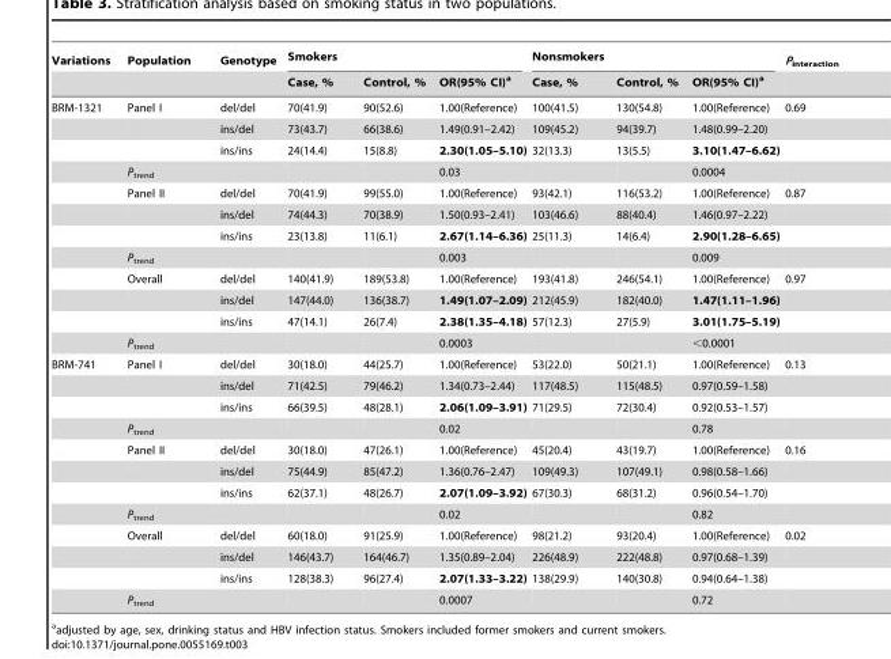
<table><thead><tr><td rowspan="2">Variations</td><td rowspan="2">Population</td><td rowspan="2">Genotype</td><td colspan="3">Smokers</td><td colspan="3">Nonsmokers</td><td rowspan="2">P<sub>interaction</sub></td></tr><tr><td>Case, %</td><td>Control, %</td><td>OR(95% CI)<sup>a</sup></td><td>Case, %</td><td>Control, %</td><td>OR(95% CI)<sup>a</sup></td></tr></thead><tbody><tr><td rowspan="12">BRM-1321</td><td>Panel I</td><td>del/del</td><td>70(41.9)</td><td>90(52.6)</td><td>1.00(Reference)</td><td>100(41.5)</td><td>130(54.8)</td><td>1.00(Reference)</td><td>0.69</td></tr><tr><td></td><td>ins/del</td><td>73(43.7)</td><td>66(38.6)</td><td>1.49(0.91–2.42)</td><td>109(45.2)</td><td>94(39.7)</td><td>1.48(0.99–2.20)</td><td></td></tr><tr><td></td><td>ins/ins</td><td>24(14.4)</td><td>15(8.8)</td><td>2.30(1.05–5.10)</td><td>32(13.3)</td><td>13(5.5)</td><td>3.10(1.47–6.62)</td><td></td></tr><tr><td>P<sub>trend</sub></td><td></td><td></td><td></td><td>0.03</td><td></td><td></td><td>0.0004</td><td></td></tr><tr><td>Panel II</td><td>del/del</td><td>70(41.9)</td><td>99(55.0)</td><td>1.00(Reference)</td><td>93(42.1)</td><td>116(53.2)</td><td>1.00(Reference)</td><td>0.87</td></tr><tr><td></td><td>ins/del</td><td>74(44.3)</td><td>70(38.9)</td><td>1.50(0.93–2.41)</td><td>103(46.6)</td><td>88(40.4)</td><td>1.46(0.97–2.22)</td><td></td></tr><tr><td></td><td>ins/ins</td><td>23(13.8)</td><td>11(6.1)</td><td>2.67(1.14–6.36)</td><td>25(11.3)</td><td>14(6.4)</td><td>2.90(1.28–6.65)</td><td></td></tr><tr><td>P<sub>trend</sub></td><td></td><td></td><td></td><td>0.003</td><td></td><td></td><td>0.009</td><td></td></tr><tr><td>Overall</td><td>del/del</td><td>140(41.9)</td><td>189(53.8)</td><td>1.00(Reference)</td><td>193(41.8)</td><td>246(54.1)</td><td>1.00(Reference)</td><td>0.97</td></tr><tr><td></td><td>ins/del</td><td>147(44.0)</td><td>136(38.7)</td><td>1.49(1.07–2.09)</td><td>212(45.9)</td><td>182(40.0)</td><td>1.47(1.11–1.96)</td><td></td></tr><tr><td></td><td>ins/ins</td><td>47(14.1)</td><td>26(7.4)</td><td>2.38(1.35–4.18)</td><td>57(12.3)</td><td>27(5.9)</td><td>3.01(1.75–5.19)</td><td></td></tr><tr><td>P<sub>trend</sub></td><td></td><td></td><td></td><td>0.0003</td><td></td><td></td><td>&lt;0.0001</td><td></td></tr><tr><td rowspan="12">BRM-741</td><td>Panel I</td><td>del/del</td><td>30(18.0)</td><td>44(25.7)</td><td>1.00(Reference)</td><td>53(22.0)</td><td>50(21.1)</td><td>1.00(Reference)</td><td>0.13</td></tr><tr><td></td><td>ins/del</td><td>71(42.5)</td><td>79(46.2)</td><td>1.34(0.73–2.44)</td><td>117(48.5)</td><td>115(48.5)</td><td>0.97(0.59–1.58)</td><td></td></tr><tr><td></td><td>ins/ins</td><td>66(39.5)</td><td>48(28.1)</td><td>2.06(1.09–3.91)</td><td>71(29.5)</td><td>72(30.4)</td><td>0.92(0.53–1.57)</td><td></td></tr><tr><td>P<sub>trend</sub></td><td></td><td></td><td></td><td>0.02</td><td></td><td></td><td>0.78</td><td></td></tr><tr><td>Panel II</td><td>del/del</td><td>30(18.0)</td><td>47(26.1)</td><td>1.00(Reference)</td><td>45(20.4)</td><td>43(19.7)</td><td>1.00(Reference)</td><td>0.16</td></tr><tr><td></td><td>ins/del</td><td>75(44.9)</td><td>85(47.2)</td><td>1.36(0.76–2.47)</td><td>109(49.3)</td><td>107(49.1)</td><td>0.98(0.58–1.66)</td><td></td></tr><tr><td></td><td>ins/ins</td><td>62(37.1)</td><td>48(26.7)</td><td>2.07(1.09–3.92)</td><td>67(30.3)</td><td>68(31.2)</td><td>0.96(0.54–1.70)</td><td></td></tr><tr><td>P<sub>trend</sub></td><td></td><td></td><td></td><td>0.02</td><td></td><td></td><td>0.82</td><td></td></tr><tr><td>Overall</td><td>del/del</td><td>60(18.0)</td><td>91(25.9)</td><td>1.00(Reference)</td><td>98(21.2)</td><td>93(20.4)</td><td>1.00(Reference)</td><td>0.02</td></tr><tr><td></td><td>ins/del</td><td>146(43.7)</td><td>164(46.7)</td><td>1.35(0.89–2.04)</td><td>226(48.9)</td><td>222(48.8)</td><td>0.97(0.68–1.39)</td><td></td></tr><tr><td></td><td>ins/ins</td><td>128(38.3)</td><td>96(27.4)</td><td>2.07(1.33–3.22)</td><td>138(29.9)</td><td>140(30.8)</td><td>0.94(0.64–1.38)</td><td></td></tr><tr><td>P<sub>trend</sub></td><td></td><td></td><td></td><td>0.0007</td><td></td><td></td><td>0.72</td><td></td></tr></tbody></table>